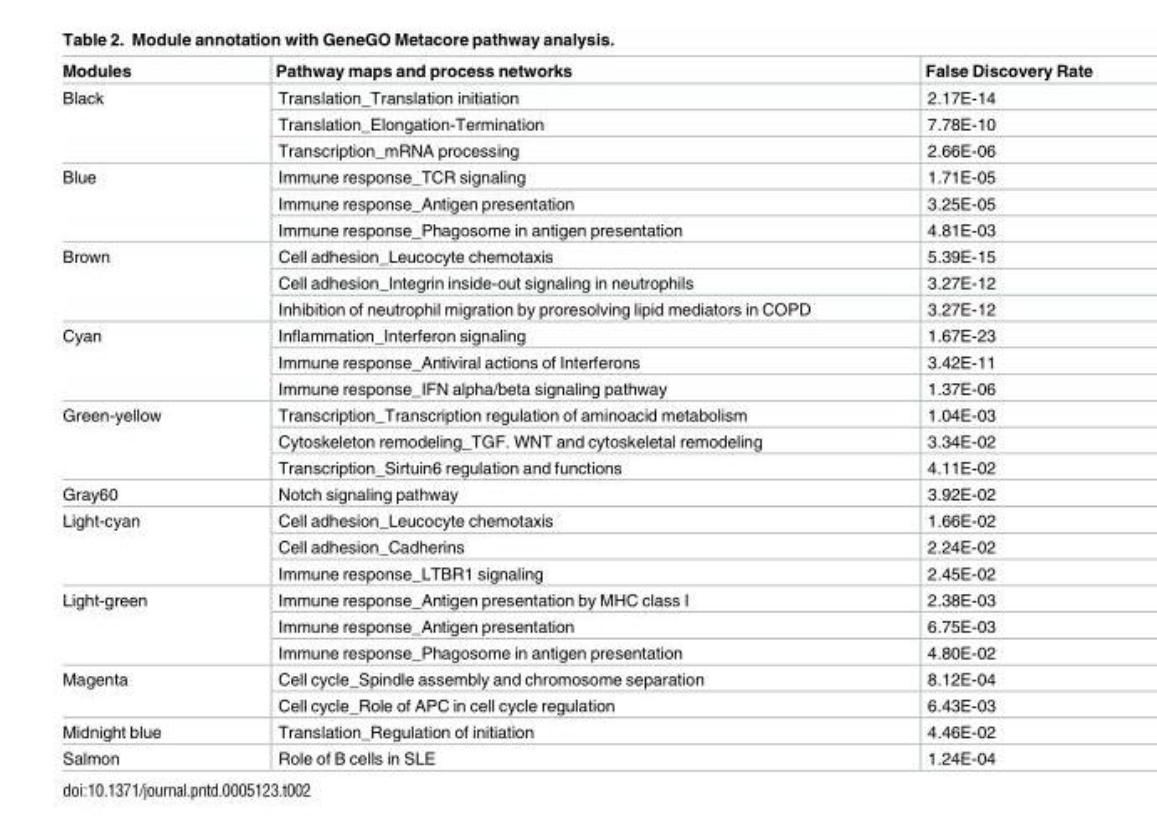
<table><thead><tr><td>Modules</td><td>Pathway maps and process networks</td><td>False Discovery Rate</td></tr></thead><tbody><tr><td rowspan="3">Black</td><td>Translation_Translation initiation</td><td>2.17E-14</td></tr><tr><td>Translation_Elongation-Termination</td><td>7.78E-10</td></tr><tr><td>Transcription_mRNA processing</td><td>2.66E-06</td></tr><tr><td rowspan="3">Blue</td><td>Immune response_TCR signaling</td><td>1.71E-05</td></tr><tr><td>Immune response_Antigen presentation</td><td>3.25E-05</td></tr><tr><td>Immune response_Phagosome in antigen presentation</td><td>4.81E-03</td></tr><tr><td rowspan="3">Brown</td><td>Cell adhesion_Leucocyte chemotaxis</td><td>5.39E-15</td></tr><tr><td>Cell adhesion_Integrin inside-out signaling in neutrophils</td><td>3.27E-12</td></tr><tr><td>Inhibition of neutrophil migration by proresolving lipid mediators in COPD</td><td>3.27E-12</td></tr><tr><td rowspan="3">Cyan</td><td>Inflammation_Interferon signaling</td><td>1.67E-23</td></tr><tr><td>Immune response_Antiviral actions of Interferons</td><td>3.42E-11</td></tr><tr><td>Immune response_IFN alpha/beta signaling pathway</td><td>1.37E-06</td></tr><tr><td rowspan="3">Green-yellow</td><td>Transcription_Transcription regulation of aminoacid metabolism</td><td>1.04E-03</td></tr><tr><td>Cytoskeleton remodeling_TGF. WNT and cytoskeletal remodeling</td><td>3.34E-02</td></tr><tr><td>Transcription_Sirtuin6 regulation and functions</td><td>4.11E-02</td></tr><tr><td>Gray60</td><td>Notch signaling pathway</td><td>3.92E-02</td></tr><tr><td rowspan="3">Light-cyan</td><td>Cell adhesion_Leucocyte chemotaxis</td><td>1.66E-02</td></tr><tr><td>Cell adhesion_Cadherins</td><td>2.24E-02</td></tr><tr><td>Immune response_LTBR1 signaling</td><td>2.45E-02</td></tr><tr><td rowspan="3">Light-green</td><td>Immune response_Antigen presentation by MHC class I</td><td>2.38E-03</td></tr><tr><td>Immune response_Antigen presentation</td><td>6.75E-03</td></tr><tr><td>Immune response_Phagosome in antigen presentation</td><td>4.80E-02</td></tr><tr><td rowspan="2">Magenta</td><td>Cell cycle_Spindle assembly and chromosome separation</td><td>8.12E-04</td></tr><tr><td>Cell cycle_Role of APC in cell cycle regulation</td><td>6.43E-03</td></tr><tr><td>Midnight blue</td><td>Translation_Regulation of initiation</td><td>4.46E-02</td></tr><tr><td>Salmon</td><td>Role of B cells in SLE</td><td>1.24E-04</td></tr></tbody></table>